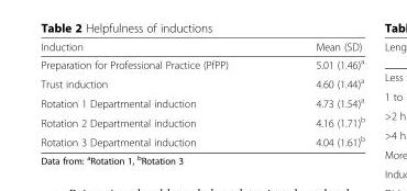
<table><thead><tr><td>Induction</td><td>Mean (SD)</td></tr></thead><tbody><tr><td>Preparation for Professional Practice (PfPP)</td><td>5.01 (1.46)<sup>a</sup></td></tr><tr><td>Trust induction</td><td>4.60 (1.44)<sup>a</sup></td></tr><tr><td>Rotation 1 Departmental induction</td><td>4.73 (1.54)<sup>a</sup></td></tr><tr><td>Rotation 2 Departmental induction</td><td>4.16 (1.71)<sup>b</sup></td></tr><tr><td>Rotation 3 Departmental induction</td><td>4.04 (1.61)<sup>b</sup></td></tr></tbody></table>